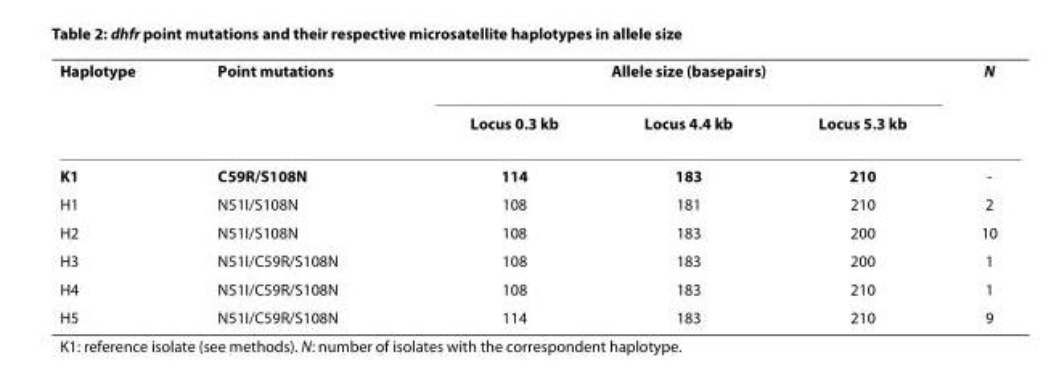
<table><thead><tr><td rowspan="2">Haplotype</td><td rowspan="2">Point mutations</td><td colspan="3">Allele size (basepairs)</td><td rowspan="2">N</td></tr><tr><td>Locus 0.3 kb</td><td>Locus 4.4 kb</td><td>Locus 5.3 kb</td></tr></thead><tbody><tr><td>K1</td><td>C59R/S108N</td><td>114</td><td>183</td><td>210</td><td>-</td></tr><tr><td>H1</td><td>N51I/S108N</td><td>108</td><td>181</td><td>210</td><td>2</td></tr><tr><td>H2</td><td>N51I/S108N</td><td>108</td><td>183</td><td>200</td><td>10</td></tr><tr><td>H3</td><td>N51I/C59R/S108N</td><td>108</td><td>183</td><td>200</td><td>1</td></tr><tr><td>H4</td><td>N51I/C59R/S108N</td><td>108</td><td>183</td><td>210</td><td>1</td></tr><tr><td>H5</td><td>N51I/C59R/S108N</td><td>114</td><td>183</td><td>210</td><td>9</td></tr></tbody></table>